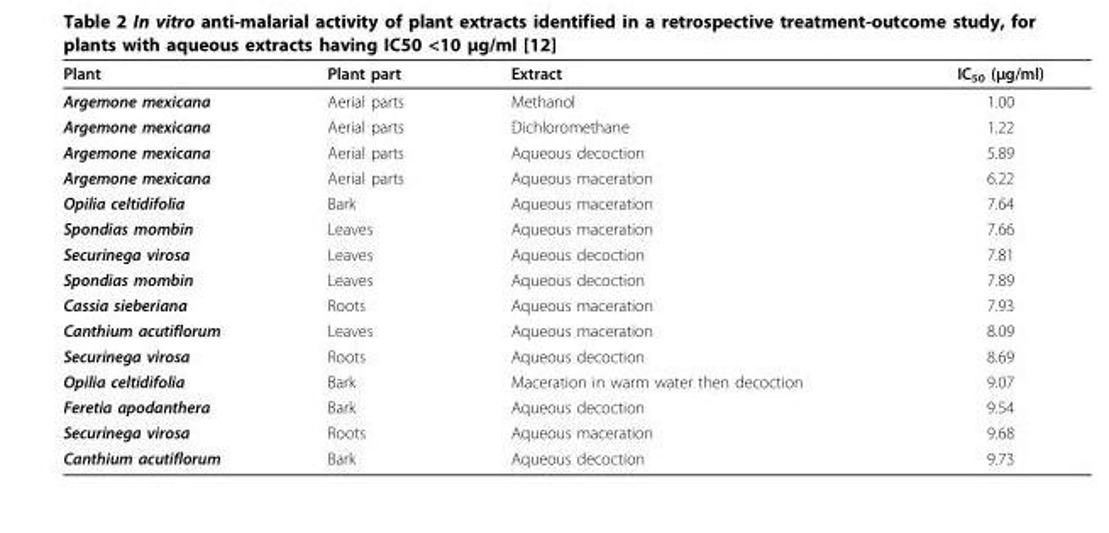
<table><thead><tr><td>Plant</td><td>Plant part</td><td>Extract</td><td>IC<sub>50</sub> (μg/ml)</td></tr></thead><tbody><tr><td>Argemone mexicana</td><td>Aerial parts</td><td>Methanol</td><td>1.00</td></tr><tr><td>Argemone mexicana</td><td>Aerial parts</td><td>Dichloromethane</td><td>1.22</td></tr><tr><td>Argemone mexicana</td><td>Aerial parts</td><td>Aqueous decoction</td><td>5.89</td></tr><tr><td>Argemone mexicana</td><td>Aerial parts</td><td>Aqueous maceration</td><td>6.22</td></tr><tr><td>Opilia celtidifolia</td><td>Bark</td><td>Aqueous maceration</td><td>7.64</td></tr><tr><td>Spondias mombin</td><td>Leaves</td><td>Aqueous maceration</td><td>7.66</td></tr><tr><td>Securinega virosa</td><td>Leaves</td><td>Aqueous decoction</td><td>7.81</td></tr><tr><td>Spondias mombin</td><td>Leaves</td><td>Aqueous decoction</td><td>7.89</td></tr><tr><td>Cassia sieberiana</td><td>Roots</td><td>Aqueous maceration</td><td>7.93</td></tr><tr><td>Canthium acutiflorum</td><td>Leaves</td><td>Aqueous maceration</td><td>8.09</td></tr><tr><td>Securinega virosa</td><td>Roots</td><td>Aqueous decoction</td><td>8.69</td></tr><tr><td>Opilia celtidifolia</td><td>Bark</td><td>Maceration in warm water then decoction</td><td>9.07</td></tr><tr><td>Feretia apodanthera</td><td>Bark</td><td>Aqueous decoction</td><td>9.54</td></tr><tr><td>Securinega virosa</td><td>Roots</td><td>Aqueous maceration</td><td>9.68</td></tr><tr><td>Canthium acutiflorum</td><td>Bark</td><td>Aqueous decoction</td><td>9.73</td></tr></tbody></table>